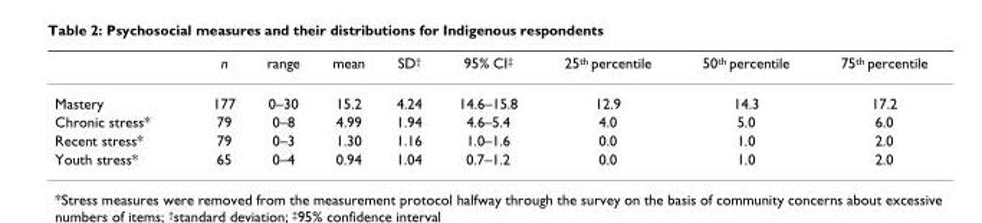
<table><thead><tr><td></td><td>n</td><td>range</td><td>mean</td><td>SD<sup>†</sup></td><td>95% CI<sup>‡</sup></td><td>25<sup>th</sup> percentile</td><td>50<sup>th</sup> percentile</td><td>75<sup>th</sup> percentile</td></tr></thead><tbody><tr><td>Mastery</td><td>177</td><td>0–30</td><td>15.2</td><td>4.24</td><td>14.6–15.8</td><td>12.9</td><td>14.3</td><td>17.2</td></tr><tr><td>Chronic stress*</td><td>79</td><td>0–8</td><td>4.99</td><td>1.94</td><td>4.6–5.4</td><td>4.0</td><td>5.0</td><td>6.0</td></tr><tr><td>Recent stress*</td><td>79</td><td>0–3</td><td>1.30</td><td>1.16</td><td>1.0–1.6</td><td>0.0</td><td>1.0</td><td>2.0</td></tr><tr><td>Youth stress*</td><td>65</td><td>0–4</td><td>0.94</td><td>1.04</td><td>0.7–1.2</td><td>0.0</td><td>1.0</td><td>2.0</td></tr></tbody></table>